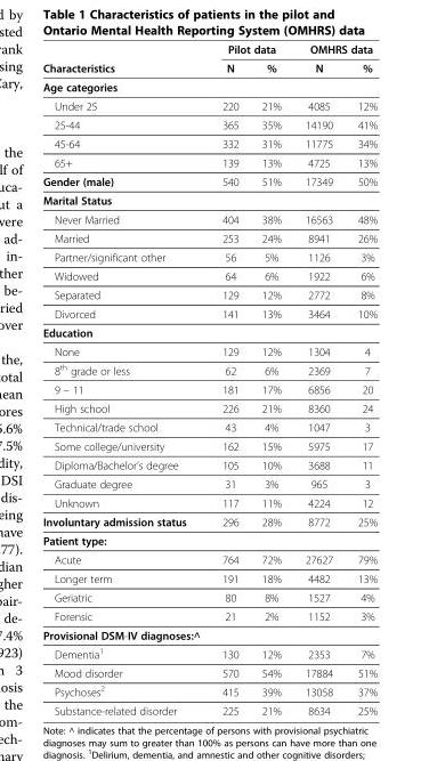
<table><thead><tr><td rowspan="2">Characteristics</td><td colspan="2">Pilot data</td><td colspan="2">OMHRS data</td></tr><tr><td>N</td><td>%</td><td>N</td><td>%</td></tr></thead><tbody><tr><td colspan="5">Age categories</td></tr><tr><td>Under 25</td><td>220</td><td>21%</td><td>4085</td><td>12%</td></tr><tr><td>25-44</td><td>365</td><td>35%</td><td>14190</td><td>41%</td></tr><tr><td>45-64</td><td>332</td><td>31%</td><td>11775</td><td>34%</td></tr><tr><td>65+</td><td>139</td><td>13%</td><td>4725</td><td>13%</td></tr><tr><td>Gender (male)</td><td>540</td><td>51%</td><td>17349</td><td>50%</td></tr><tr><td colspan="5">Marital Status</td></tr><tr><td>Never Married</td><td>404</td><td>38%</td><td>16563</td><td>48%</td></tr><tr><td>Married</td><td>253</td><td>24%</td><td>8941</td><td>26%</td></tr><tr><td>Partner/significant other</td><td>56</td><td>5%</td><td>1126</td><td>3%</td></tr><tr><td>Widowed</td><td>64</td><td>6%</td><td>1922</td><td>6%</td></tr><tr><td>Separated</td><td>129</td><td>12%</td><td>2772</td><td>8%</td></tr><tr><td>Divorced</td><td>141</td><td>13%</td><td>3464</td><td>10%</td></tr><tr><td colspan="5">Education</td></tr><tr><td>None</td><td>129</td><td>12%</td><td>1304</td><td>4</td></tr><tr><td>8<sup>th</sup> grade or less</td><td>62</td><td>6%</td><td>2369</td><td>7</td></tr><tr><td>9 – 11</td><td>181</td><td>17%</td><td>6856</td><td>20</td></tr><tr><td>High school</td><td>226</td><td>21%</td><td>8360</td><td>24</td></tr><tr><td>Technical/trade school</td><td>43</td><td>4%</td><td>1047</td><td>3</td></tr><tr><td>Some college/university</td><td>162</td><td>15%</td><td>5975</td><td>17</td></tr><tr><td>Diploma/Bachelor’s degree</td><td>105</td><td>10%</td><td>3688</td><td>11</td></tr><tr><td>Graduate degree</td><td>31</td><td>3%</td><td>965</td><td>3</td></tr><tr><td>Unknown</td><td>117</td><td>11%</td><td>4224</td><td>12</td></tr><tr><td>Involuntary admission status</td><td>296</td><td>28%</td><td>8772</td><td>25%</td></tr><tr><td colspan="5">Patient type:</td></tr><tr><td>Acute</td><td>764</td><td>72%</td><td>27627</td><td>79%</td></tr><tr><td>Longer term</td><td>191</td><td>18%</td><td>4482</td><td>13%</td></tr><tr><td>Geriatric</td><td>80</td><td>8%</td><td>1527</td><td>4%</td></tr><tr><td>Forensic</td><td>21</td><td>2%</td><td>1152</td><td>3%</td></tr><tr><td colspan="5">Provisional DSM-IV diagnoses:^</td></tr><tr><td>Dementia<sup>1</sup></td><td>130</td><td>12%</td><td>2353</td><td>7%</td></tr><tr><td>Mood disorder</td><td>570</td><td>54%</td><td>17884</td><td>51%</td></tr><tr><td>Psychoses<sup>2</sup></td><td>415</td><td>39%</td><td>13058</td><td>37%</td></tr><tr><td>Substance-related disorder</td><td>225</td><td>21%</td><td>8634</td><td>25%</td></tr></tbody></table>